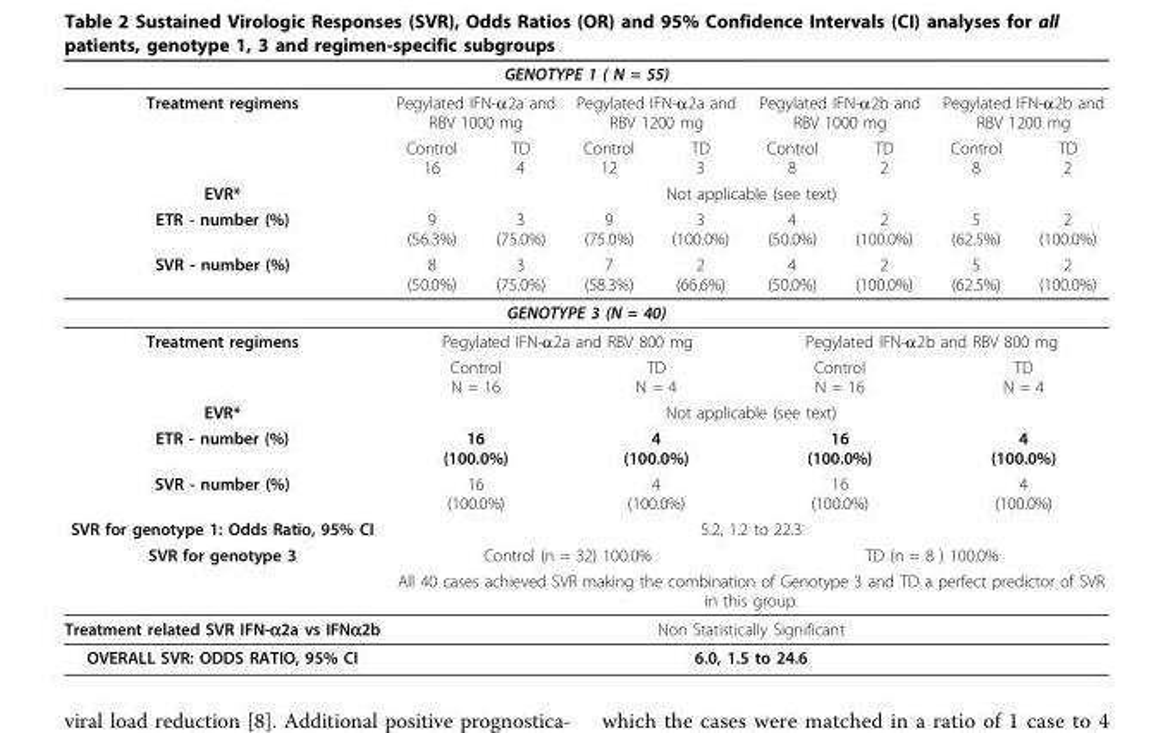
<table><thead><tr><td colspan="9">GENOTYPE 1 ( N = 55)</td></tr><tr><td rowspan="2">Treatment regimens</td><td colspan="2">Pegylated IFN-α2a and RBV 1000 mg</td><td colspan="2">Pegylated IFN-α2a and RBV 1200 mg</td><td colspan="2">Pegylated IFN-α2b and RBV 1000 mg</td><td colspan="2">Pegylated IFN-α2b and RBV 1200 mg</td></tr><tr><td>Control 16</td><td>TD 4</td><td>Control 12</td><td>TD 3</td><td>Control 8</td><td>TD 2</td><td>Control 8</td><td>TD 2</td></tr></thead><tbody><tr><td>EVR*</td><td colspan="8">Not applicable (see text)</td></tr><tr><td>ETR - number (%)</td><td>9 (56.3%)</td><td>3 (75.0%)</td><td>9 (75.0%)</td><td>3 (100.0%)</td><td>4 (50.0%)</td><td>2 (100.0%)</td><td>5 (62.5%)</td><td>2 (100.0%)</td></tr><tr><td>SVR - number (%)</td><td>8 (50.0%)</td><td>3 (75.0%)</td><td>7 (58.3%)</td><td>2 (66.6%)</td><td>4 (50.0%)</td><td>2 (100.0%)</td><td>5 (62.5%)</td><td>2 (100.0%)</td></tr><tr><td colspan="9">GENOTYPE 3 (N = 40)</td></tr><tr><td rowspan="2">Treatment regimens</td><td colspan="4">Pegylated IFN-α2a and RBV 800 mg</td><td colspan="4">Pegylated IFN-α2b and RBV 800 mg</td></tr><tr><td colspan="2">Control N = 16</td><td colspan="2">TD N = 4</td><td colspan="2">Control N = 16</td><td colspan="2">TD N = 4</td></tr><tr><td>EVR*</td><td colspan="8">Not applicable (see text)</td></tr><tr><td>ETR - number (%)</td><td colspan="2">16 (100.0%)</td><td colspan="2">4 (100.0%)</td><td colspan="2">16 (100.0%)</td><td colspan="2">4 (100.0%)</td></tr><tr><td>SVR - number (%)</td><td colspan="2">16 (100.0%)</td><td colspan="2">4 (100.0%)</td><td colspan="2">16 (100.0%)</td><td colspan="2">4 (100.0%)</td></tr><tr><td>SVR for genotype 1: Odds Ratio, 95% CI</td><td colspan="8">5.2, 1.2 to 22.3</td></tr><tr><td rowspan="2">SVR for genotype 3</td><td colspan="4">Control (n = 32) 100.0%</td><td colspan="4">TD (n = 8 ) 100.0%</td></tr><tr><td colspan="8">All 40 cases achieved SVR making the combination of Genotype 3 and TD a perfect predictor of SVR in this group.</td></tr><tr><td>Treatment related SVR IFN-α2a vs IFNα2b</td><td colspan="8">Non Statistically Significant</td></tr><tr><td>OVERALL SVR: ODDS RATIO, 95% CI</td><td colspan="8">6.0, 1.5 to 24.6</td></tr></tbody></table>